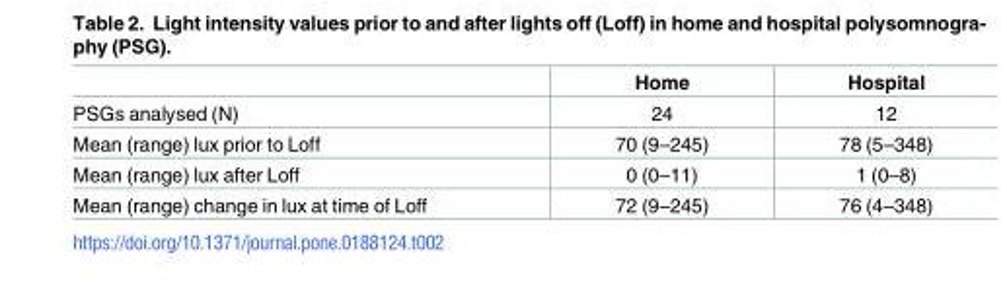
<table><thead><tr><td></td><td>Home</td><td>Hospital</td></tr></thead><tbody><tr><td>PSGs analysed (N)</td><td>24</td><td>12</td></tr><tr><td>Mean (range) lux prior to Loff</td><td>70 (9–245)</td><td>78 (5–348)</td></tr><tr><td>Mean (range) lux after Loff</td><td>0 (0–11)</td><td>1 (0–8)</td></tr><tr><td>Mean (range) change in lux at time of Loff</td><td>72 (9–245)</td><td>76 (4–348)</td></tr></tbody></table>